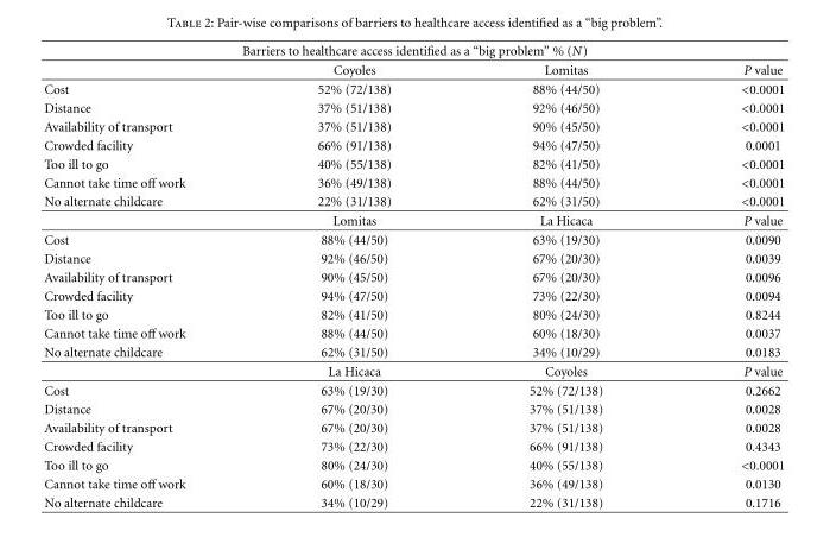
<table><thead><tr><td colspan="4">Barriers to healthcare access identified as a “big problem” % (N)</td></tr><tr><td></td><td>Coyoles</td><td>Lomitas</td><td>P value</td></tr></thead><tbody><tr><td>Cost</td><td>52% (72/138)</td><td>88% (44/50)</td><td>&lt;0.0001</td></tr><tr><td>Distance</td><td>37% (51/138)</td><td>92% (46/50)</td><td>&lt;0.0001</td></tr><tr><td>Availability of transport</td><td>37% (51/138)</td><td>90% (45/50)</td><td>&lt;0.0001</td></tr><tr><td>Crowded facility</td><td>66% (91/138)</td><td>94% (47/50)</td><td>0.0001</td></tr><tr><td>Too ill to go</td><td>40% (55/138)</td><td>82% (41/50)</td><td>&lt;0.0001</td></tr><tr><td>Cannot take time off work</td><td>36% (49/138)</td><td>88% (44/50)</td><td>&lt;0.0001</td></tr><tr><td rowspan="2">No alternate childcare</td><td>22% (31/138)</td><td>62% (31/50)</td><td>&lt;0.0001</td></tr><tr><td>Lomitas</td><td>La Hicaca</td><td>P value</td></tr><tr><td>Cost</td><td>88% (44/50)</td><td>63% (19/30)</td><td>0.0090</td></tr><tr><td>Distance</td><td>92% (46/50)</td><td>67% (20/30)</td><td>0.0039</td></tr><tr><td>Availability of transport</td><td>90% (45/50)</td><td>67% (20/30)</td><td>0.0096</td></tr><tr><td>Crowded facility</td><td>94% (47/50)</td><td>73% (22/30)</td><td>0.0094</td></tr><tr><td>Too ill to go</td><td>82% (41/50)</td><td>80% (24/30)</td><td>0.8244</td></tr><tr><td>Cannot take time off work</td><td>88% (44/50)</td><td>60% (18/30)</td><td>0.0037</td></tr><tr><td rowspan="2">No alternate childcare</td><td>62% (31/50)</td><td>34% (10/29)</td><td>0.0183</td></tr><tr><td>La Hicaca</td><td>Coyoles</td><td>P value</td></tr><tr><td>Cost</td><td>63% (19/30)</td><td>52% (72/138)</td><td>0.2662</td></tr><tr><td>Distance</td><td>67% (20/30)</td><td>37% (51/138)</td><td>0.0028</td></tr><tr><td>Availability of transport</td><td>67% (20/30)</td><td>37% (51/138)</td><td>0.0028</td></tr><tr><td>Crowded facility</td><td>73% (22/30)</td><td>66% (91/138)</td><td>0.4343</td></tr><tr><td>Too ill to go</td><td>80% (24/30)</td><td>40% (55/138)</td><td>&lt;0.0001</td></tr><tr><td>Cannot take time off work</td><td>60% (18/30)</td><td>36% (49/138)</td><td>0.0130</td></tr><tr><td>No alternate childcare</td><td>34% (10/29)</td><td>22% (31/138)</td><td>0.1716</td></tr></tbody></table>